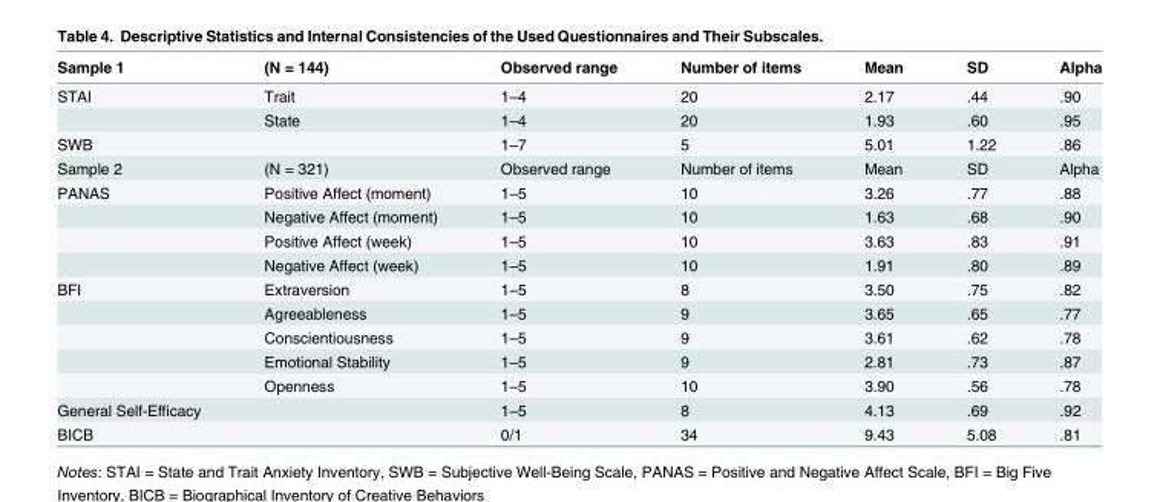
<table><thead><tr><td>Sample 1</td><td>(N = 144)</td><td>Observed range</td><td>Number of items</td><td>Mean</td><td>SD</td><td>Alpha</td></tr></thead><tbody><tr><td rowspan="2">STAI</td><td>Trait</td><td>1–4</td><td>20</td><td>2.17</td><td>.44</td><td>.90</td></tr><tr><td>State</td><td>1–4</td><td>20</td><td>1.93</td><td>.60</td><td>.95</td></tr><tr><td>SWB</td><td></td><td>1–7</td><td>5</td><td>5.01</td><td>1.22</td><td>.86</td></tr><tr><td>Sample 2</td><td>(N = 321)</td><td>Observed range</td><td>Number of items</td><td>Mean</td><td>SD</td><td>Alpha</td></tr><tr><td rowspan="4">PANAS</td><td>Positive Affect (moment)</td><td>1–5</td><td>10</td><td>3.26</td><td>.77</td><td>.88</td></tr><tr><td>Negative Affect (moment)</td><td>1–5</td><td>10</td><td>1.63</td><td>.68</td><td>.90</td></tr><tr><td>Positive Affect (week)</td><td>1–5</td><td>10</td><td>3.63</td><td>.83</td><td>.91</td></tr><tr><td>Negative Affect (week)</td><td>1–5</td><td>10</td><td>1.91</td><td>.80</td><td>.89</td></tr><tr><td rowspan="5">BFI</td><td>Extraversion</td><td>1–5</td><td>8</td><td>3.50</td><td>.75</td><td>.82</td></tr><tr><td>Agreeableness</td><td>1–5</td><td>9</td><td>3.65</td><td>.65</td><td>.77</td></tr><tr><td>Conscientiousness</td><td>1–5</td><td>9</td><td>3.61</td><td>.62</td><td>.78</td></tr><tr><td>Emotional Stability</td><td>1–5</td><td>9</td><td>2.81</td><td>.73</td><td>.87</td></tr><tr><td>Openness</td><td>1–5</td><td>10</td><td>3.90</td><td>.56</td><td>.78</td></tr><tr><td>General Self-Efficacy</td><td></td><td>1–5</td><td>8</td><td>4.13</td><td>.69</td><td>.92</td></tr><tr><td>BICB</td><td></td><td>0/1</td><td>34</td><td>9.43</td><td>5.08</td><td>.81</td></tr></tbody></table>